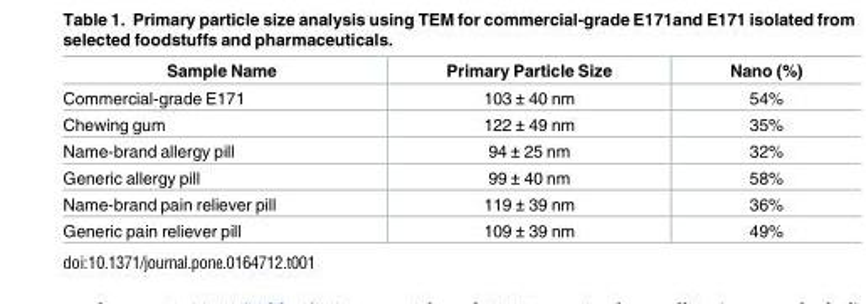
<table><thead><tr><td>Sample Name</td><td>Primary Particle Size</td><td>Nano (%)</td></tr></thead><tbody><tr><td>Commercial-grade E171</td><td>103 ± 40 nm</td><td>54%</td></tr><tr><td>Chewing gum</td><td>122 ± 49 nm</td><td>35%</td></tr><tr><td>Name-brand allergy pill</td><td>94 ± 25 nm</td><td>32%</td></tr><tr><td>Generic allergy pill</td><td>99 ± 40 nm</td><td>58%</td></tr><tr><td>Name-brand pain reliever pill</td><td>119 ± 39 nm</td><td>36%</td></tr><tr><td>Generic pain reliever pill</td><td>109 ± 39 nm</td><td>49%</td></tr></tbody></table>